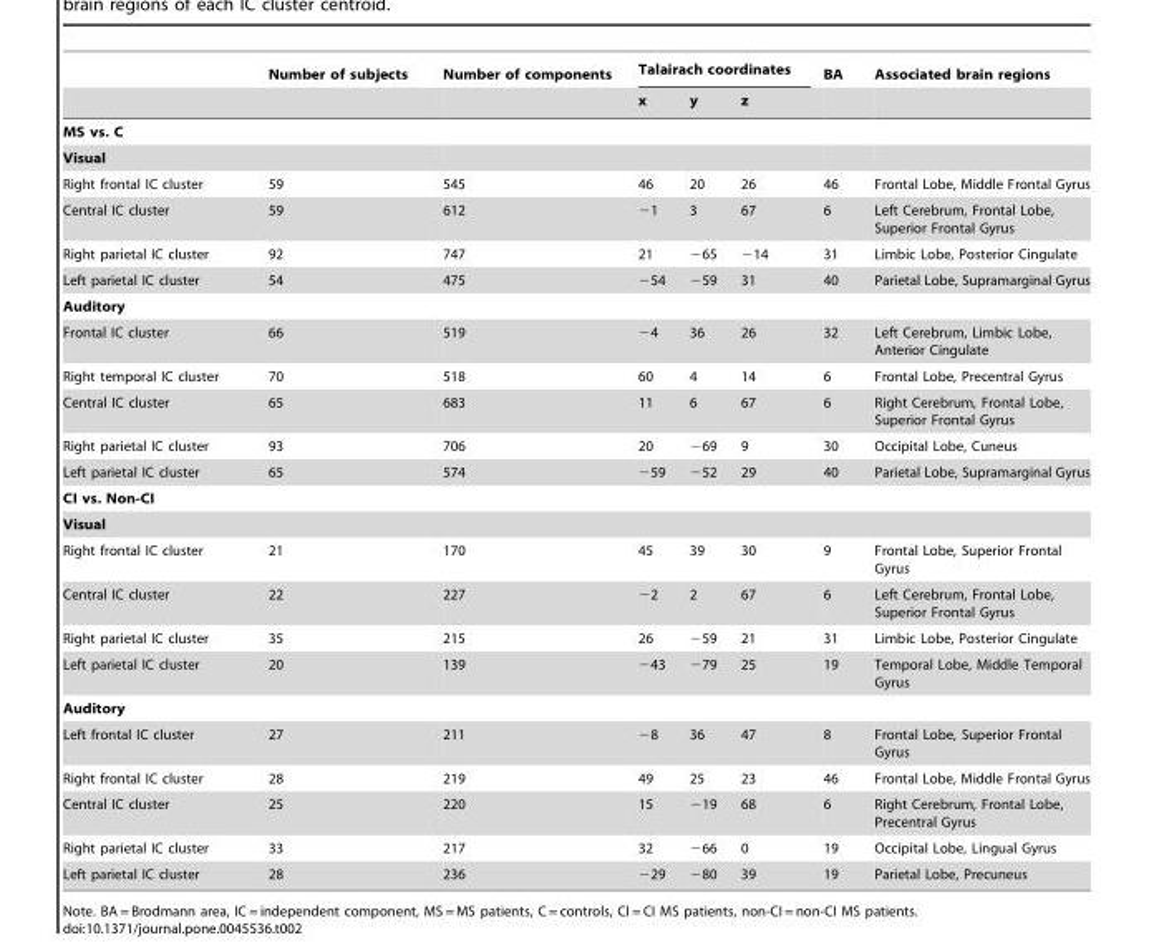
<table><thead><tr><td rowspan="2"></td><td rowspan="2">Number of subjects</td><td rowspan="2">Number of components</td><td colspan="3">Talairach coordinates</td><td rowspan="2">BA</td><td rowspan="2">Associated brain regions</td></tr><tr><td>x</td><td>y</td><td>z</td></tr></thead><tbody><tr><td colspan="8">MS vs. C</td></tr><tr><td colspan="8">Visual</td></tr><tr><td>Right frontal IC cluster</td><td>59</td><td>545</td><td>46</td><td>20</td><td>26</td><td>46</td><td>Frontal Lobe, Middle Frontal Gyrus</td></tr><tr><td>Central IC cluster</td><td>59</td><td>612</td><td>−1</td><td>3</td><td>67</td><td>6</td><td>Left Cerebrum, Frontal Lobe, Superior Frontal Gyrus</td></tr><tr><td>Right parietal IC cluster</td><td>92</td><td>747</td><td>21</td><td>−65</td><td>−14</td><td>31</td><td>Limbic Lobe, Posterior Cingulate</td></tr><tr><td>Left parietal IC cluster</td><td>54</td><td>475</td><td>−54</td><td>−59</td><td>31</td><td>40</td><td>Parietal Lobe, Supramarginal Gyrus</td></tr><tr><td colspan="8">Auditory</td></tr><tr><td>Frontal IC cluster</td><td>66</td><td>519</td><td>−4</td><td>36</td><td>26</td><td>32</td><td>Left Cerebrum, Limbic Lobe, Anterior Cingulate</td></tr><tr><td>Right temporal IC cluster</td><td>70</td><td>518</td><td>60</td><td>4</td><td>14</td><td>6</td><td>Frontal Lobe, Precentral Gyrus</td></tr><tr><td>Central IC cluster</td><td>65</td><td>683</td><td>11</td><td>6</td><td>67</td><td>6</td><td>Right Cerebrum, Frontal Lobe, Superior Frontal Gyrus</td></tr><tr><td>Right parietal IC cluster</td><td>93</td><td>706</td><td>20</td><td>−69</td><td>9</td><td>30</td><td>Occipital Lobe, Cuneus</td></tr><tr><td>Left parietal IC cluster</td><td>65</td><td>574</td><td>−59</td><td>−52</td><td>29</td><td>40</td><td>Parietal Lobe, Supramarginal Gyrus</td></tr><tr><td colspan="8">CI vs. Non-CI</td></tr><tr><td colspan="8">Visual</td></tr><tr><td>Right frontal IC cluster</td><td>21</td><td>170</td><td>45</td><td>39</td><td>30</td><td>9</td><td>Frontal Lobe, Superior Frontal Gyrus</td></tr><tr><td>Central IC cluster</td><td>22</td><td>227</td><td>−2</td><td>2</td><td>67</td><td>6</td><td>Left Cerebrum, Frontal Lobe, Superior Frontal Gyrus</td></tr><tr><td>Right parietal IC cluster</td><td>35</td><td>215</td><td>26</td><td>−59</td><td>21</td><td>31</td><td>Limbic Lobe, Posterior Cingulate</td></tr><tr><td>Left parietal IC cluster</td><td>20</td><td>139</td><td>−43</td><td>−79</td><td>25</td><td>19</td><td>Temporal Lobe, Middle Temporal Gyrus</td></tr><tr><td colspan="8">Auditory</td></tr><tr><td>Left frontal IC cluster</td><td>27</td><td>211</td><td>−8</td><td>36</td><td>47</td><td>8</td><td>Frontal Lobe, Superior Frontal Gyrus</td></tr><tr><td>Right frontal IC cluster</td><td>28</td><td>219</td><td>49</td><td>25</td><td>23</td><td>46</td><td>Frontal Lobe, Middle Frontal Gyrus</td></tr><tr><td>Central IC cluster</td><td>25</td><td>220</td><td>15</td><td>−19</td><td>68</td><td>6</td><td>Right Cerebrum, Frontal Lobe, Precentral Gyrus</td></tr><tr><td>Right parietal IC cluster</td><td>33</td><td>217</td><td>32</td><td>−66</td><td>0</td><td>19</td><td>Occipital Lobe, Lingual Gyrus</td></tr><tr><td>Left parietal IC cluster</td><td>28</td><td>236</td><td>−29</td><td>−80</td><td>39</td><td>19</td><td>Parietal Lobe, Precuneus</td></tr></tbody></table>